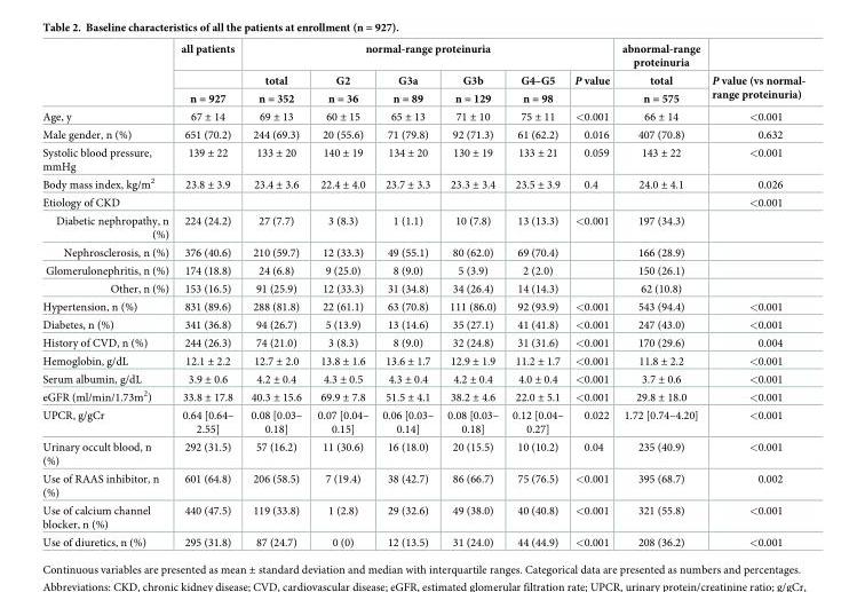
<table><thead><tr><td rowspan="3"></td><td rowspan="3">all patients n = 927</td><td colspan="6">normal-range proteinuria</td><td rowspan="3">abnormal-range proteinuria total n = 575</td><td rowspan="3">P value (vs normal- range proteinuria)</td></tr><tr><td rowspan="2">total n = 352</td><td rowspan="2">G2 n = 36</td><td rowspan="2">G3a n = 89</td><td rowspan="2">G3b n = 129</td><td rowspan="2">G4–G5 n = 98</td><td rowspan="2">P value</td></tr><tr></tr></thead><tbody><tr><td>Age, y</td><td>67 ± 14</td><td>69 ± 13</td><td>60 ± 15</td><td>65 ± 13</td><td>71 ± 10</td><td>75 ± 11</td><td>&lt;0.001</td><td>66 ± 14</td><td>&lt;0.001</td></tr><tr><td>Male gender, n (%)</td><td>651 (70.2)</td><td>244 (69.3)</td><td>20 (55.6)</td><td>71 (79.8)</td><td>92 (71.3)</td><td>61 (62.2)</td><td>0.016</td><td>407 (70.8)</td><td>0.632</td></tr><tr><td>Systolic blood pressure, mmHg</td><td>139 ± 22</td><td>133 ± 20</td><td>140 ± 19</td><td>134 ± 20</td><td>130 ± 19</td><td>133 ± 21</td><td>0.059</td><td>143 ± 22</td><td>&lt;0.001</td></tr><tr><td>Body mass index, kg/m<sup>2</sup></td><td>23.8 ± 3.9</td><td>23.4 ± 3.6</td><td>22.4 ± 4.0</td><td>23.7 ± 3.3</td><td>23.3 ± 3.4</td><td>23.5 ± 3.9</td><td>0.4</td><td>24.0 ± 4.1</td><td>0.026</td></tr><tr><td>Etiology of CKD</td><td></td><td></td><td></td><td></td><td></td><td></td><td></td><td></td><td>&lt;0.001</td></tr><tr><td>Diabetic nephropathy, n (%)</td><td>224 (24.2)</td><td>27 (7.7)</td><td>3 (8.3)</td><td>1 (1.1)</td><td>10 (7.8)</td><td>13 (13.3)</td><td>&lt;0.001</td><td>197 (34.3)</td><td></td></tr><tr><td>Nephrosclerosis, n (%)</td><td>376 (40.6)</td><td>210 (59.7)</td><td>12 (33.3)</td><td>49 (55.1)</td><td>80 (62.0)</td><td>69 (70.4)</td><td></td><td>166 (28.9)</td><td></td></tr><tr><td>Glomerulonephritis, n (%)</td><td>174 (18.8)</td><td>24 (6.8)</td><td>9 (25.0)</td><td>8 (9.0)</td><td>5 (3.9)</td><td>2 (2.0)</td><td></td><td>150 (26.1)</td><td></td></tr><tr><td>Other, n (%)</td><td>153 (16.5)</td><td>91 (25.9)</td><td>12 (33.3)</td><td>31 (34.8)</td><td>34 (26.4)</td><td>14 (14.3)</td><td></td><td>62 (10.8)</td><td></td></tr><tr><td>Hypertension, n (%)</td><td>831 (89.6)</td><td>288 (81.8)</td><td>22 (61.1)</td><td>63 (70.8)</td><td>111 (86.0)</td><td>92 (93.9)</td><td>&lt;0.001</td><td>543 (94.4)</td><td>&lt;0.001</td></tr><tr><td>Diabetes, n (%)</td><td>341 (36.8)</td><td>94 (26.7)</td><td>5 (13.9)</td><td>13 (14.6)</td><td>35 (27.1)</td><td>41 (41.8)</td><td>&lt;0.001</td><td>247 (43.0)</td><td>&lt;0.001</td></tr><tr><td>History of CVD, n (%)</td><td>244 (26.3)</td><td>74 (21.0)</td><td>3 (8.3)</td><td>8 (9.0)</td><td>32 (24.8)</td><td>31 (31.6)</td><td>&lt;0.001</td><td>170 (29.6)</td><td>0.004</td></tr><tr><td>Hemoglobin, g/dL</td><td>12.1 ± 2.2</td><td>12.7 ± 2.0</td><td>13.8 ± 1.6</td><td>13.6 ± 1.7</td><td>12.9 ± 1.9</td><td>11.2 ± 1.7</td><td>&lt;0.001</td><td>11.8 ± 2.2</td><td>&lt;0.001</td></tr><tr><td>Serum albumin, g/dL</td><td>3.9 ± 0.6</td><td>4.2 ± 0.4</td><td>4.3 ± 0.5</td><td>4.3 ± 0.4</td><td>4.2 ± 0.4</td><td>4.0 ± 0.4</td><td>&lt;0.001</td><td>3.7 ± 0.6</td><td>&lt;0.001</td></tr><tr><td>eGFR (ml/min/1.73m<sup>2</sup>)</td><td>33.8 ± 17.8</td><td>40.3 ± 15.6</td><td>69.9 ± 7.8</td><td>51.5 ± 4.1</td><td>38.2 ± 4.6</td><td>22.0 ± 5.1</td><td>&lt;0.001</td><td>29.8 ± 18.0</td><td>&lt;0.001</td></tr><tr><td>UPCR, g/gCr</td><td>0.64 [0.64– 2.55]</td><td>0.08 [0.03– 0.18]</td><td>0.07 [0.04– 0.15]</td><td>0.06 [0.03– 0.14]</td><td>0.08 [0.03– 0.18]</td><td>0.12 [0.04– 0.27]</td><td>0.022</td><td>1.72 [0.74–4.20]</td><td>&lt;0.001</td></tr><tr><td>Urinary occult blood, n (%)</td><td>292 (31.5)</td><td>57 (16.2)</td><td>11 (30.6)</td><td>16 (18.0)</td><td>20 (15.5)</td><td>10 (10.2)</td><td>0.04</td><td>235 (40.9)</td><td>&lt;0.001</td></tr><tr><td>Use of RAAS inhibitor, n (%)</td><td>601 (64.8)</td><td>206 (58.5)</td><td>7 (19.4)</td><td>38 (42.7)</td><td>86 (66.7)</td><td>75 (76.5)</td><td>&lt;0.001</td><td>395 (68.7)</td><td>0.002</td></tr><tr><td>Use of calcium channel blocker, n (%)</td><td>440 (47.5)</td><td>119 (33.8)</td><td>1 (2.8)</td><td>29 (32.6)</td><td>49 (38.0)</td><td>40 (40.8)</td><td>&lt;0.001</td><td>321 (55.8)</td><td>&lt;0.001</td></tr><tr><td>Use of diuretics, n (%)</td><td>295 (31.8)</td><td>87 (24.7)</td><td>0 (0)</td><td>12 (13.5)</td><td>31 (24.0)</td><td>44 (44.9)</td><td>&lt;0.001</td><td>208 (36.2)</td><td>&lt;0.001</td></tr></tbody></table>